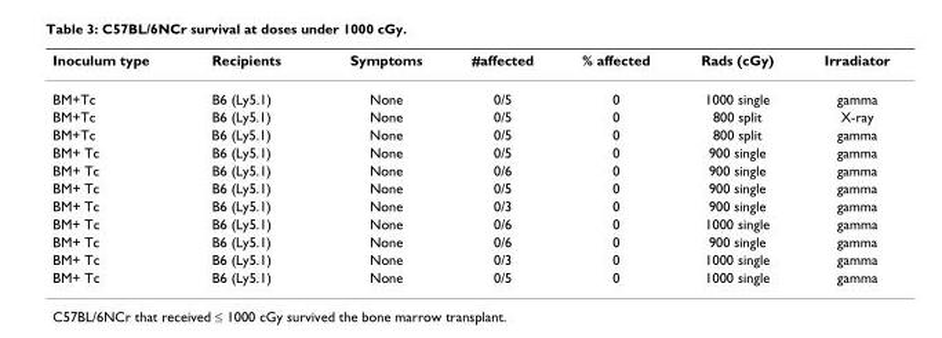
<table><thead><tr><td>Inoculum type</td><td>Recipients</td><td>Symptoms</td><td>#affected</td><td>% affected</td><td>Rads (cGy)</td><td>Irradiator</td></tr></thead><tbody><tr><td>BM+Tc</td><td>B6 (Ly5.1)</td><td>None</td><td>0/5</td><td>0</td><td>1000 single</td><td>gamma</td></tr><tr><td>BM+Tc</td><td>B6 (Ly5.1)</td><td>None</td><td>0/5</td><td>0</td><td>800 split</td><td>X-ray</td></tr><tr><td>BM+Tc</td><td>B6 (Ly5.1)</td><td>None</td><td>0/5</td><td>0</td><td>800 split</td><td>gamma</td></tr><tr><td>BM+ Tc</td><td>B6 (Ly5.1)</td><td>None</td><td>0/5</td><td>0</td><td>900 single</td><td>gamma</td></tr><tr><td>BM+ Tc</td><td>B6 (Ly5.1)</td><td>None</td><td>0/6</td><td>0</td><td>900 single</td><td>gamma</td></tr><tr><td>BM+ Tc</td><td>B6 (Ly5.1)</td><td>None</td><td>0/5</td><td>0</td><td>900 single</td><td>gamma</td></tr><tr><td>BM+ Tc</td><td>B6 (Ly5.1)</td><td>None</td><td>0/3</td><td>0</td><td>900 single</td><td>gamma</td></tr><tr><td>BM+ Tc</td><td>B6 (Ly5.1)</td><td>None</td><td>0/6</td><td>0</td><td>1000 single</td><td>gamma</td></tr><tr><td>BM+ Tc</td><td>B6 (Ly5.1)</td><td>None</td><td>0/6</td><td>0</td><td>900 single</td><td>gamma</td></tr><tr><td>BM+ Tc</td><td>B6 (Ly5.1)</td><td>None</td><td>0/3</td><td>0</td><td>1000 single</td><td>gamma</td></tr><tr><td>BM+ Tc</td><td>B6 (Ly5.1)</td><td>None</td><td>0/5</td><td>0</td><td>1000 single</td><td>gamma</td></tr></tbody></table>